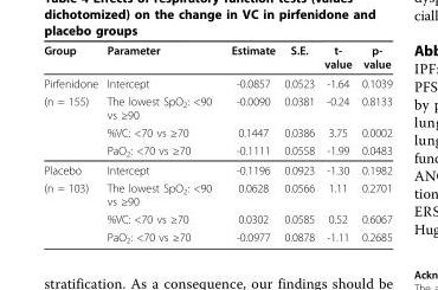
<table><thead><tr><td>Group</td><td>Parameter</td><td>Estimate</td><td>S.E.</td><td>t- value</td><td>p- value</td></tr></thead><tbody><tr><td>Pirfenidone</td><td>Intercept</td><td>-0.0857</td><td>0.0523</td><td>-1.64</td><td>0.1039</td></tr><tr><td rowspan="3">(n = 155)</td><td>The lowest SpO<sub>2</sub>: &lt;90 vs ≥90</td><td>-0.0090</td><td>0.0381</td><td>-0.24</td><td>0.8133</td></tr><tr><td>%VC: &lt;70 vs ≥70</td><td>0.1447</td><td>0.0386</td><td>3.75</td><td>0.0002</td></tr><tr><td>PaO<sub>2</sub>: &lt;70 vs ≥70</td><td>-0.1111</td><td>0.0558</td><td>-1.99</td><td>0.0483</td></tr><tr><td>Placebo</td><td>Intercept</td><td>-0.1196</td><td>0.0923</td><td>-1.30</td><td>0.1982</td></tr><tr><td rowspan="3">(n = 103)</td><td>The lowest SpO<sub>2</sub>: &lt;90 vs ≥90</td><td>0.0628</td><td>0.0566</td><td>1.11</td><td>0.2701</td></tr><tr><td>%VC: &lt;70 vs ≥70</td><td>0.0302</td><td>0.0585</td><td>0.52</td><td>0.6067</td></tr><tr><td>PaO<sub>2</sub>: &lt;70 vs ≥70</td><td>-0.0977</td><td>0.0878</td><td>-1.11</td><td>0.2685</td></tr></tbody></table>